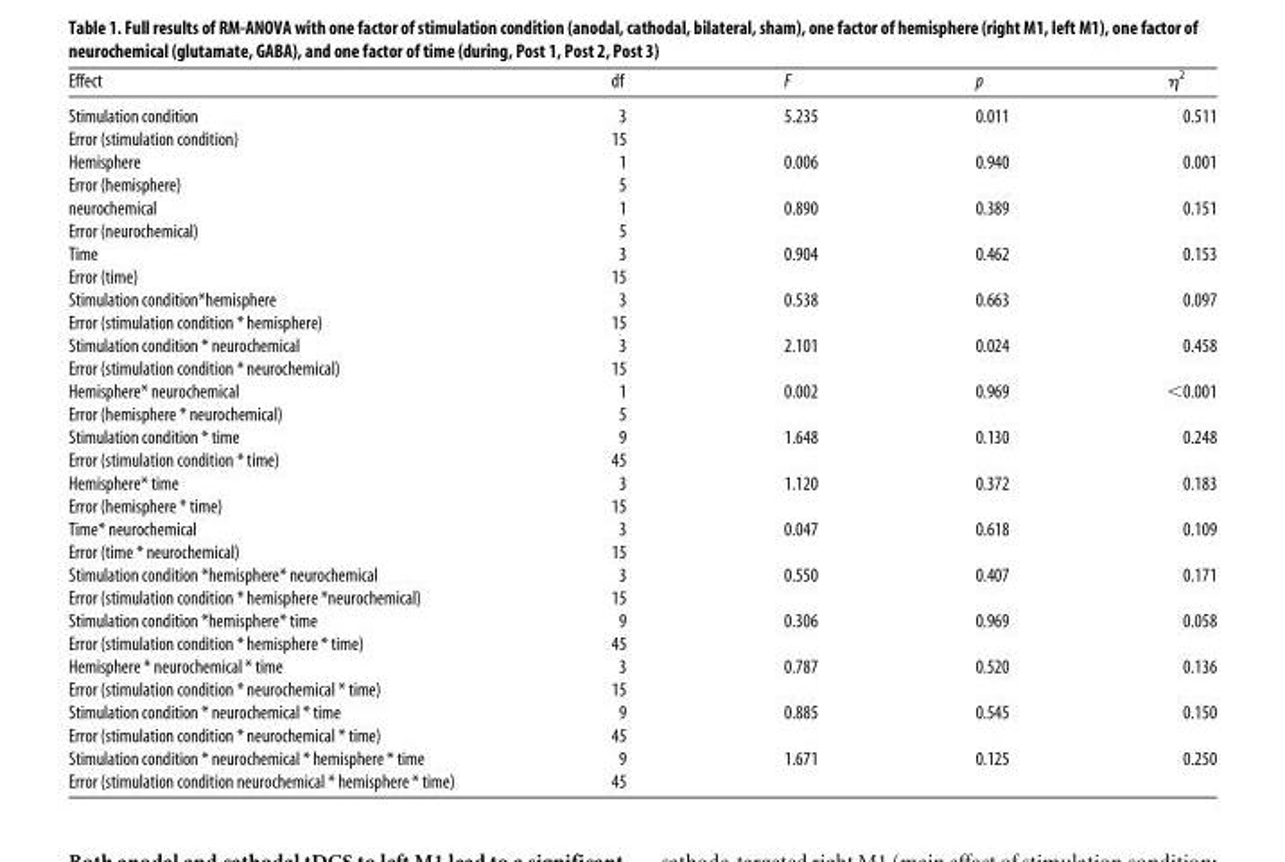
<table><thead><tr><td>Effect</td><td>df</td><td>F</td><td>p</td><td>η<sup>2</sup></td></tr></thead><tbody><tr><td>Stimulation condition</td><td>3</td><td>5.235</td><td>0.011</td><td>0.511</td></tr><tr><td>Error (stimulation condition)</td><td>15</td><td></td><td></td><td></td></tr><tr><td>Hemisphere</td><td>1</td><td>0.006</td><td>0.940</td><td>0.001</td></tr><tr><td>Error (hemisphere)</td><td>5</td><td></td><td></td><td></td></tr><tr><td>neurochemical</td><td>1</td><td>0.890</td><td>0.389</td><td>0.151</td></tr><tr><td>Error (neurochemical)</td><td>5</td><td></td><td></td><td></td></tr><tr><td>Time</td><td>3</td><td>0.904</td><td>0.462</td><td>0.153</td></tr><tr><td>Error (time)</td><td>15</td><td></td><td></td><td></td></tr><tr><td>Stimulation condition*hemisphere</td><td>3</td><td>0.538</td><td>0.663</td><td>0.097</td></tr><tr><td>Error (stimulation condition * hemisphere)</td><td>15</td><td></td><td></td><td></td></tr><tr><td>Stimulation condition * neurochemical</td><td>3</td><td>2.101</td><td>0.024</td><td>0.458</td></tr><tr><td>Error (stimulation condition * neurochemical)</td><td>15</td><td></td><td></td><td></td></tr><tr><td>Hemisphere* neurochemical</td><td>1</td><td>0.002</td><td>0.969</td><td>&lt;0.001</td></tr><tr><td>Error (hemisphere * neurochemical)</td><td>5</td><td></td><td></td><td></td></tr><tr><td>Stimulation condition * time</td><td>9</td><td>1.648</td><td>0.130</td><td>0.248</td></tr><tr><td>Error (stimulation condition * time)</td><td>45</td><td></td><td></td><td></td></tr><tr><td>Hemisphere* time</td><td>3</td><td>1.120</td><td>0.372</td><td>0.183</td></tr><tr><td>Error (hemisphere * time)</td><td>15</td><td></td><td></td><td></td></tr><tr><td>Time* neurochemical</td><td>3</td><td>0.047</td><td>0.618</td><td>0.109</td></tr><tr><td>Error (time * neurochemical)</td><td>15</td><td></td><td></td><td></td></tr><tr><td>Stimulation condition *hemisphere* neurochemical</td><td>3</td><td>0.550</td><td>0.407</td><td>0.171</td></tr><tr><td>Error (stimulation condition * hemisphere *neurochemical)</td><td>15</td><td></td><td></td><td></td></tr><tr><td>Stimulation condition *hemisphere* time</td><td>9</td><td>0.306</td><td>0.969</td><td>0.058</td></tr><tr><td>Error (stimulation condition * hemisphere * time)</td><td>45</td><td></td><td></td><td></td></tr><tr><td>Hemisphere * neurochemical * time</td><td>3</td><td>0.787</td><td>0.520</td><td>0.136</td></tr><tr><td>Error (stimulation condition * neurochemical * time)</td><td>15</td><td></td><td></td><td></td></tr><tr><td>Stimulation condition * neurochemical * time</td><td>9</td><td>0.885</td><td>0.545</td><td>0.150</td></tr><tr><td>Error (stimulation condition * neurochemical * time)</td><td>45</td><td></td><td></td><td></td></tr><tr><td>Stimulation condition * neurochemical * hemisphere * time</td><td>9</td><td>1.671</td><td>0.125</td><td>0.250</td></tr><tr><td>Error (stimulation condition neurochemical * hemisphere * time)</td><td>45</td><td></td><td></td><td></td></tr></tbody></table>